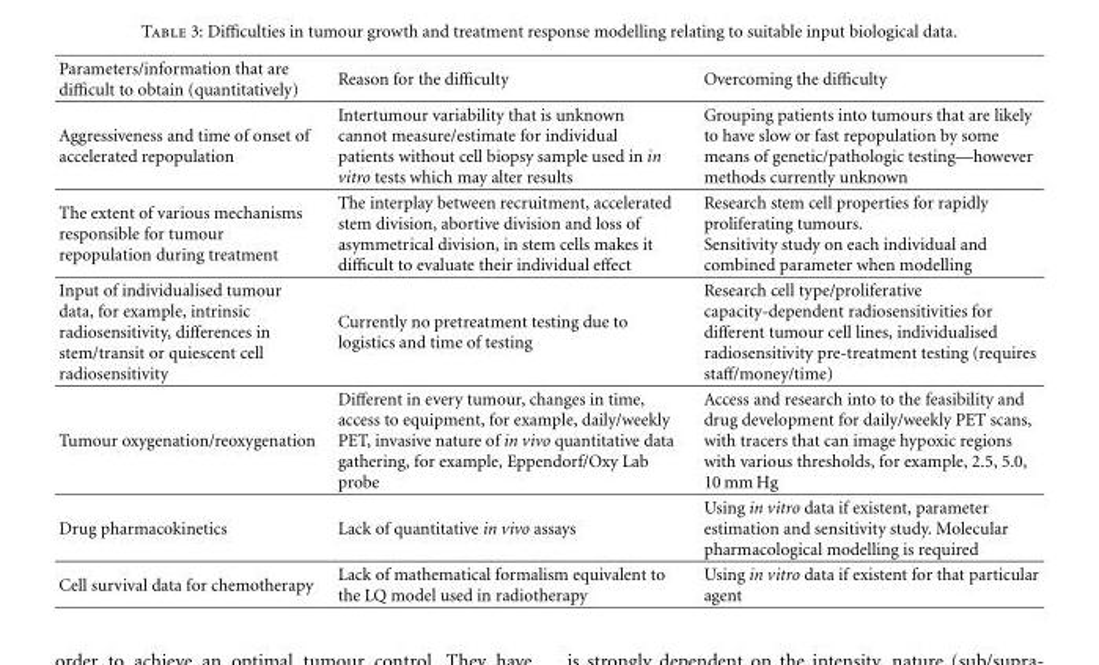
<table><thead><tr><td>Parameters/information that are difficult to obtain (quantitatively)</td><td>Reason for the difficulty</td><td>Overcoming the difficulty</td></tr></thead><tbody><tr><td>Aggressiveness and time of onset of accelerated repopulation</td><td>Intertumour variability that is unknown cannot measure/estimate for individual patients without cell biopsy sample used in in vitro tests which may alter results</td><td>Grouping patients into tumours that are likely to have slow or fast repopulation by some means of genetic/pathologic testing—however methods currently unknown</td></tr><tr><td>The extent of various mechanisms responsible for tumour repopulation during treatment</td><td>The interplay between recruitment, accelerated stem division, abortive division and loss of asymmetrical division, in stem cells makes it difficult to evaluate their individual effect</td><td>Research stem cell properties for rapidly proliferating tumours. Sensitivity study on each individual and combined parameter when modelling</td></tr><tr><td>Input of individualised tumour data, for example, intrinsic radiosensitivity, differences in stem/transit or quiescent cell radiosensitivity</td><td>Currently no pretreatment testing due to logistics and time of testing</td><td>Research cell type/proliferative capacity-dependent radiosensitivities for different tumour cell lines, individualised radiosensitivity pre-treatment testing (requires staff/money/time)</td></tr><tr><td>Tumour oxygenation/reoxygenation</td><td>Different in every tumour, changes in time, access to equipment, for example, daily/weekly PET, invasive nature of in vivo quantitative data gathering, for example, Eppendorf/Oxy Lab probe</td><td>Access and research into to the feasibility and drug development for daily/weekly PET scans, with tracers that can image hypoxic regions with various thresholds, for example, 2.5, 5.0, 10 mm Hg</td></tr><tr><td>Drug pharmacokinetics</td><td>Lack of quantitative in vivo assays</td><td>Using in vitro data if existent, parameter estimation and sensitivity study. Molecular pharmacological modelling is required</td></tr><tr><td>Cell survival data for chemotherapy</td><td>Lack of mathematical formalism equivalent to the LQ model used in radiotherapy</td><td>Using in vitro data if existent for that particular agent</td></tr></tbody></table>